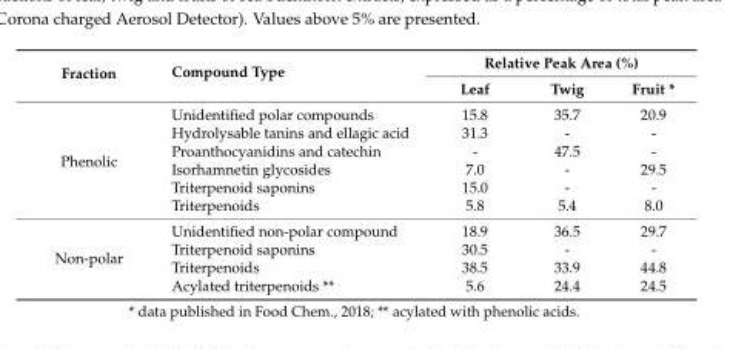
<table><thead><tr><td rowspan="2">Fraction</td><td rowspan="2">Compound Type</td><td colspan="3">Relative Peak Area (%)</td></tr><tr><td>Leaf</td><td>Twig</td><td>Fruit *</td></tr></thead><tbody><tr><td rowspan="6">Phenolic</td><td>Unidentified polar compounds</td><td>15.8</td><td>35.7</td><td>20.9</td></tr><tr><td>Hydrolysable tanins and ellagic acid</td><td>31.3</td><td>-</td><td>-</td></tr><tr><td>Proanthocyanidins and catechin</td><td>-</td><td>47.5</td><td>-</td></tr><tr><td>Isorhamnetin glycosides</td><td>7.0</td><td>-</td><td>29.5</td></tr><tr><td>Triterpenoid saponins</td><td>15.0</td><td>-</td><td>-</td></tr><tr><td>Triterpenoids</td><td>5.8</td><td>5.4</td><td>8.0</td></tr><tr><td rowspan="4">Non-polar</td><td>Unidentified non-polar compound</td><td>18.9</td><td>36.5</td><td>29.7</td></tr><tr><td>Triterpenoid saponins</td><td>30.5</td><td>-</td><td>-</td></tr><tr><td>Triterpenoids</td><td>38.5</td><td>33.9</td><td>44.8</td></tr><tr><td>Acylated triterpenoids **</td><td>5.6</td><td>24.4</td><td>24.5</td></tr></tbody></table>